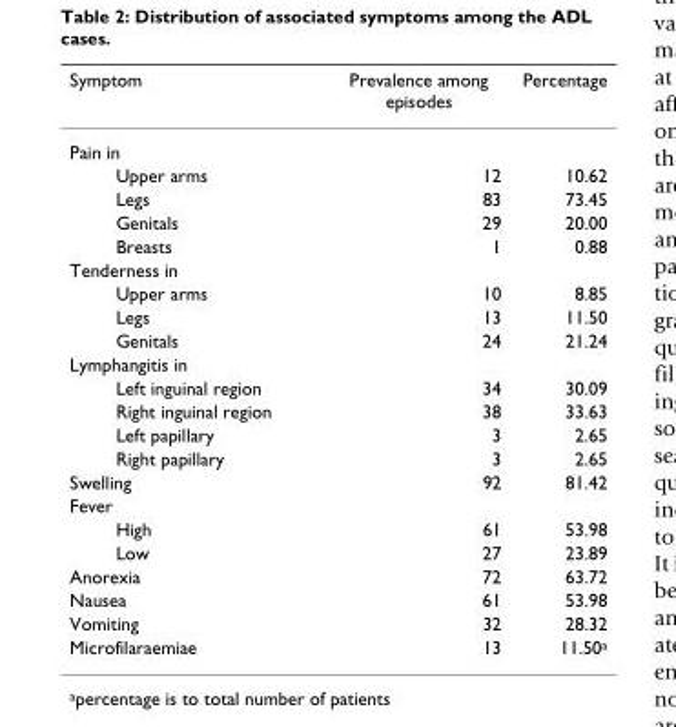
<table><thead><tr><td>Symptom</td><td>Prevalence among episodes</td><td>Percentage</td></tr></thead><tbody><tr><td colspan="3">Pain in</td></tr><tr><td>Upper arms</td><td>12</td><td>10.62</td></tr><tr><td>Legs</td><td>83</td><td>73.45</td></tr><tr><td>Genitals</td><td>29</td><td>20.00</td></tr><tr><td>Breasts</td><td>1</td><td>0.88</td></tr><tr><td colspan="3">Tenderness in</td></tr><tr><td>Upper arms</td><td>10</td><td>8.85</td></tr><tr><td>Legs</td><td>13</td><td>11.50</td></tr><tr><td>Genitals</td><td>24</td><td>21.24</td></tr><tr><td colspan="3">Lymphangitis in</td></tr><tr><td>Left inguinal region</td><td>34</td><td>30.09</td></tr><tr><td>Right inguinal region</td><td>38</td><td>33.63</td></tr><tr><td>Left papillary</td><td>3</td><td>2.65</td></tr><tr><td>Right papillary</td><td>3</td><td>2.65</td></tr><tr><td>Swelling</td><td>92</td><td>81.42</td></tr><tr><td colspan="3">Fever</td></tr><tr><td>High</td><td>61</td><td>53.98</td></tr><tr><td>Low</td><td>27</td><td>23.89</td></tr><tr><td>Anorexia</td><td>72</td><td>63.72</td></tr><tr><td>Nausea</td><td>61</td><td>53.98</td></tr><tr><td>Vomiting</td><td>32</td><td>28.32</td></tr><tr><td>Microfilaraemiae</td><td>13</td><td>11.50<sup>a</sup></td></tr></tbody></table>